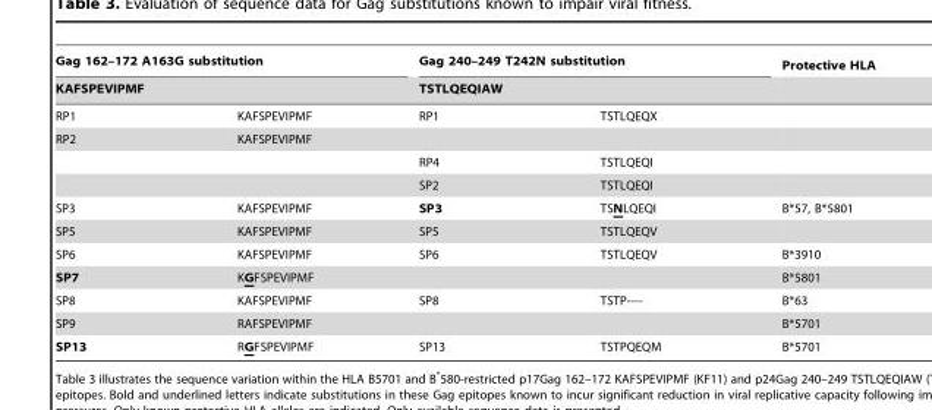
<table><thead><tr><td rowspan="2" colspan="2">Gag 162–172 A163G substitution KAFSPEVIPMF</td><td rowspan="2" colspan="2">Gag 240–249 T242N substitution TSTLQEQIAW</td><td rowspan="3">Protective HLA</td></tr><tr></tr><tr><td>RP1</td><td>KAFSPEVIPMF</td><td>RP1</td><td>TSTLQEQX</td></tr></thead><tbody><tr><td rowspan="3">RP2</td><td>KAFSPEVIPMF</td><td></td><td></td><td></td></tr><tr><td></td><td>RP4</td><td>TSTLQEQI</td><td></td></tr><tr><td></td><td>SP2</td><td>TSTLQEQI</td><td></td></tr><tr><td>SP3</td><td>KAFSPEVIPMF</td><td>SP3</td><td>TSNLQEQI</td><td>B*57, B*5801</td></tr><tr><td>SP5</td><td>KAFSPEVIPMF</td><td>SP5</td><td>TSTLQEQV</td><td></td></tr><tr><td>SP6</td><td>KAFSPEVIPMF</td><td>SP6</td><td>TSTLQEQV</td><td>B*3910</td></tr><tr><td>SP7</td><td>KGFSPEVIPMF</td><td></td><td></td><td>B*5801</td></tr><tr><td>SP8</td><td>KAFSPEVIPMF</td><td>SP8</td><td>TSTP----</td><td>B*63</td></tr><tr><td>SP9</td><td>RAFSPEVIPMF</td><td></td><td></td><td>B*5701</td></tr><tr><td>SP13</td><td>RGFSPEVIPMF</td><td>SP13</td><td>TSTPQEQM</td><td>B*5701</td></tr></tbody></table>